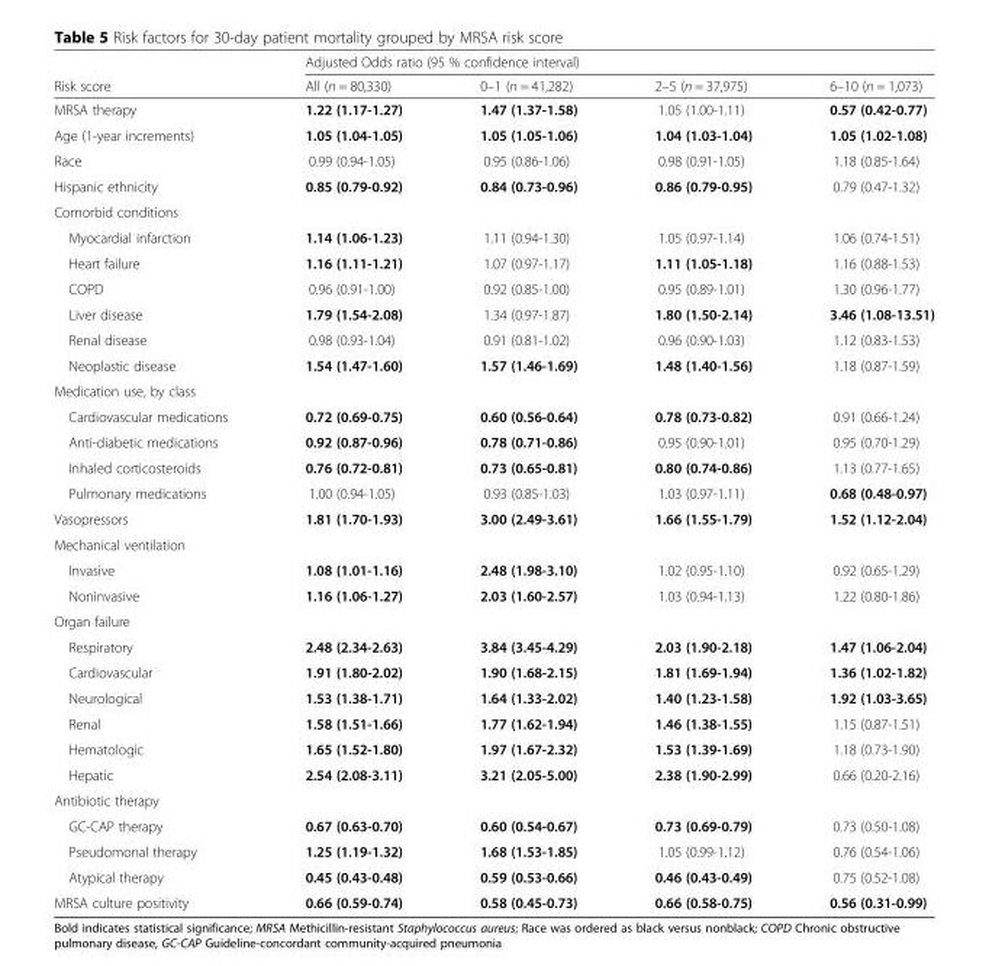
<table><thead><tr><td rowspan="2">Risk score</td><td colspan="4">Adjusted Odds ratio (95 % confidence interval)</td></tr><tr><td>All (n = 80,330)</td><td>0–1 (n = 41,282)</td><td>2–5 (n = 37,975)</td><td>6–10 (n = 1,073)</td></tr></thead><tbody><tr><td>MRSA therapy</td><td>1.22 (1.17-1.27)</td><td>1.47 (1.37-1.58)</td><td>1.05 (1.00-1.11)</td><td>0.57 (0.42-0.77)</td></tr><tr><td>Age (1-year increments)</td><td>1.05 (1.04-1.05)</td><td>1.05 (1.05-1.06)</td><td>1.04 (1.03-1.04)</td><td>1.05 (1.02-1.08)</td></tr><tr><td>Race</td><td>0.99 (0.94-1.05)</td><td>0.95 (0.86-1.06)</td><td>0.98 (0.91-1.05)</td><td>1.18 (0.85-1.64)</td></tr><tr><td>Hispanic ethnicity</td><td>0.85 (0.79-0.92)</td><td>0.84 (0.73-0.96)</td><td>0.86 (0.79-0.95)</td><td>0.79 (0.47-1.32)</td></tr><tr><td colspan="5">Comorbid conditions</td></tr><tr><td>Myocardial infarction</td><td>1.14 (1.06-1.23)</td><td>1.11 (0.94-1.30)</td><td>1.05 (0.97-1.14)</td><td>1.06 (0.74-1.51)</td></tr><tr><td>Heart failure</td><td>1.16 (1.11-1.21)</td><td>1.07 (0.97-1.17)</td><td>1.11 (1.05-1.18)</td><td>1.16 (0.88-1.53)</td></tr><tr><td>COPD</td><td>0.96 (0.91-1.00)</td><td>0.92 (0.85-1.00)</td><td>0.95 (0.89-1.01)</td><td>1.30 (0.96-1.77)</td></tr><tr><td>Liver disease</td><td>1.79 (1.54-2.08)</td><td>1.34 (0.97-1.87)</td><td>1.80 (1.50-2.14)</td><td>3.46 (1.08-13.51)</td></tr><tr><td>Renal disease</td><td>0.98 (0.93-1.04)</td><td>0.91 (0.81-1.02)</td><td>0.96 (0.90-1.03)</td><td>1.12 (0.83-1.53)</td></tr><tr><td>Neoplastic disease</td><td>1.54 (1.47-1.60)</td><td>1.57 (1.46-1.69)</td><td>1.48 (1.40-1.56)</td><td>1.18 (0.87-1.59)</td></tr><tr><td colspan="5">Medication use, by class</td></tr><tr><td>Cardiovascular medications</td><td>0.72 (0.69-0.75)</td><td>0.60 (0.56-0.64)</td><td>0.78 (0.73-0.82)</td><td>0.91 (0.66-1.24)</td></tr><tr><td>Anti-diabetic medications</td><td>0.92 (0.87-0.96)</td><td>0.78 (0.71-0.86)</td><td>0.95 (0.90-1.01)</td><td>0.95 (0.70-1.29)</td></tr><tr><td>Inhaled corticosteroids</td><td>0.76 (0.72-0.81)</td><td>0.73 (0.65-0.81)</td><td>0.80 (0.74-0.86)</td><td>1.13 (0.77-1.65)</td></tr><tr><td>Pulmonary medications</td><td>1.00 (0.94-1.05)</td><td>0.93 (0.85-1.03)</td><td>1.03 (0.97-1.11)</td><td>0.68 (0.48-0.97)</td></tr><tr><td>Vasopressors</td><td>1.81 (1.70-1.93)</td><td>3.00 (2.49-3.61)</td><td>1.66 (1.55-1.79)</td><td>1.52 (1.12-2.04)</td></tr><tr><td colspan="5">Mechanical ventilation</td></tr><tr><td>Invasive</td><td>1.08 (1.01-1.16)</td><td>2.48 (1.98-3.10)</td><td>1.02 (0.95-1.10)</td><td>0.92 (0.65-1.29)</td></tr><tr><td>Noninvasive</td><td>1.16 (1.06-1.27)</td><td>2.03 (1.60-2.57)</td><td>1.03 (0.94-1.13)</td><td>1.22 (0.80-1.86)</td></tr><tr><td colspan="5">Organ failure</td></tr><tr><td>Respiratory</td><td>2.48 (2.34-2.63)</td><td>3.84 (3.45-4.29)</td><td>2.03 (1.90-2.18)</td><td>1.47 (1.06-2.04)</td></tr><tr><td>Cardiovascular</td><td>1.91 (1.80-2.02)</td><td>1.90 (1.68-2.15)</td><td>1.81 (1.69-1.94)</td><td>1.36 (1.02-1.82)</td></tr><tr><td>Neurological</td><td>1.53 (1.38-1.71)</td><td>1.64 (1.33-2.02)</td><td>1.40 (1.23-1.58)</td><td>1.92 (1.03-3.65)</td></tr><tr><td>Renal</td><td>1.58 (1.51-1.66)</td><td>1.77 (1.62-1.94)</td><td>1.46 (1.38-1.55)</td><td>1.15 (0.87-1.51)</td></tr><tr><td>Hematologic</td><td>1.65 (1.52-1.80)</td><td>1.97 (1.67-2.32)</td><td>1.53 (1.39-1.69)</td><td>1.18 (0.73-1.90)</td></tr><tr><td>Hepatic</td><td>2.54 (2.08-3.11)</td><td>3.21 (2.05-5.00)</td><td>2.38 (1.90-2.99)</td><td>0.66 (0.20-2.16)</td></tr><tr><td colspan="5">Antibiotic therapy</td></tr><tr><td>GC-CAP therapy</td><td>0.67 (0.63-0.70)</td><td>0.60 (0.54-0.67)</td><td>0.73 (0.69-0.79)</td><td>0.73 (0.50-1.08)</td></tr><tr><td>Pseudomonal therapy</td><td>1.25 (1.19-1.32)</td><td>1.68 (1.53-1.85)</td><td>1.05 (0.99-1.12)</td><td>0.76 (0.54-1.06)</td></tr><tr><td>Atypical therapy</td><td>0.45 (0.43-0.48)</td><td>0.59 (0.53-0.66)</td><td>0.46 (0.43-0.49)</td><td>0.75 (0.52-1.08)</td></tr><tr><td>MRSA culture positivity</td><td>0.66 (0.59-0.74)</td><td>0.58 (0.45-0.73)</td><td>0.66 (0.58-0.75)</td><td>0.56 (0.31-0.99)</td></tr></tbody></table>